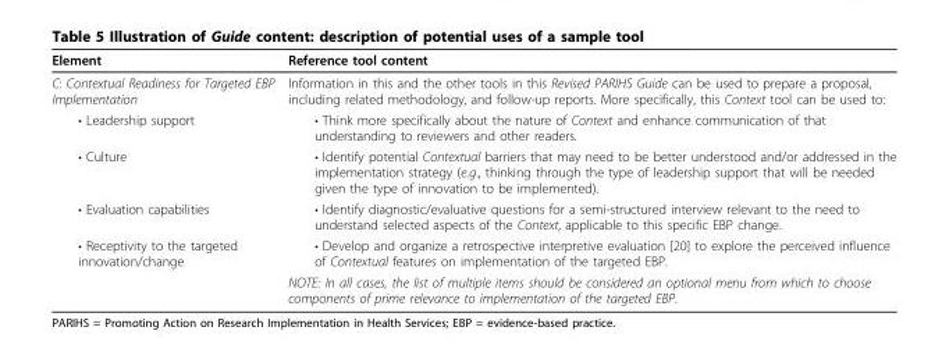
<table><thead><tr><td>Element</td><td>Reference tool content</td></tr></thead><tbody><tr><td>C: Contextual Readiness for Targeted EBP Implementation</td><td>Information in this and the other tools in this Revised PARIHS Guide can be used to prepare a proposal, including related methodology, and follow-up reports. More specifically, this Context tool can be used to:</td></tr><tr><td>• Leadership support</td><td>• Think more specifically about the nature of Context and enhance communication of that understanding to reviewers and other readers.</td></tr><tr><td>• Culture</td><td>• Identify potential Contextual barriers that may need to be better understood and/or addressed in the implementation strategy (e.g., thinking through the type of leadership support that will be needed given the type of innovation to be implemented).</td></tr><tr><td>• Evaluation capabilities</td><td>• Identify diagnostic/evaluative questions for a semi-structured interview relevant to the need to understand selected aspects of the Context, applicable to this specific EBP change.</td></tr><tr><td rowspan="2">• Receptivity to the targeted innovation/change</td><td>• Develop and organize a retrospective interpretive evaluation [20] to explore the perceived influence of Contextual features on implementation of the targeted EBP.</td></tr><tr><td>NOTE: In all cases, the list of multiple items should be considered an optional menu from which to choose components of prime relevance to implementation of the targeted EBP.</td></tr></tbody></table>